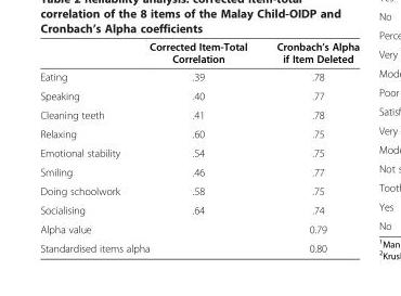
<table><thead><tr><td></td><td>Corrected Item-Total Correlation</td><td>Cronbach’s Alpha if Item Deleted</td></tr></thead><tbody><tr><td>Eating</td><td>.39</td><td>.78</td></tr><tr><td>Speaking</td><td>.40</td><td>.77</td></tr><tr><td>Cleaning teeth</td><td>.41</td><td>.78</td></tr><tr><td>Relaxing</td><td>.60</td><td>.75</td></tr><tr><td>Emotional stability</td><td>.54</td><td>.75</td></tr><tr><td>Smiling</td><td>.46</td><td>.77</td></tr><tr><td>Doing schoolwork</td><td>.58</td><td>.75</td></tr><tr><td>Socialising</td><td>.64</td><td>.74</td></tr><tr><td colspan="2">Alpha value</td><td>0.79</td></tr><tr><td colspan="2">Standardised items alpha</td><td>0.80</td></tr></tbody></table>